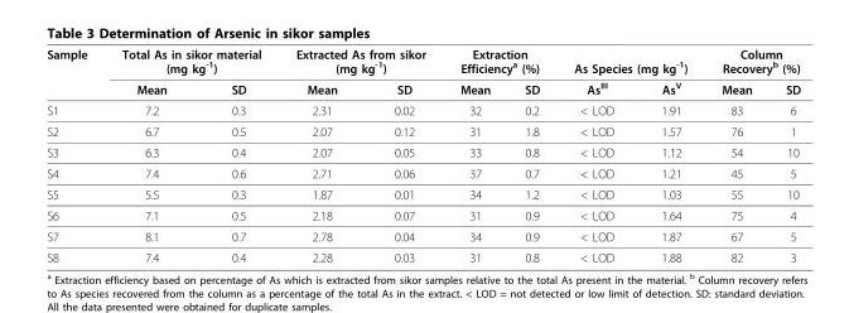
<table><thead><tr><td rowspan="2">Sample</td><td colspan="2">Total As in sikor material (mg kg<sup>-1</sup>)</td><td colspan="2">Extracted As from sikor (mg kg<sup>-1</sup>)</td><td colspan="2">Extraction Efficiency<sup>a</sup> (%)</td><td colspan="2">As Species (mg kg<sup>-1</sup>)</td><td colspan="2">Column Recovery<sup>b</sup> (%)</td></tr><tr><td>Mean</td><td>SD</td><td>Mean</td><td>SD</td><td>Mean</td><td>SD</td><td>As<sup>III</sup></td><td>As<sup>V</sup></td><td>Mean</td><td>SD</td></tr></thead><tbody><tr><td>S1</td><td>7.2</td><td>0.3</td><td>2.31</td><td>0.02</td><td>32</td><td>0.2</td><td>&lt; LOD</td><td>1.91</td><td>83</td><td>6</td></tr><tr><td>S2</td><td>6.7</td><td>0.5</td><td>2.07</td><td>0.12</td><td>31</td><td>1.8</td><td>&lt; LOD</td><td>1.57</td><td>76</td><td>1</td></tr><tr><td>S3</td><td>6.3</td><td>0.4</td><td>2.07</td><td>0.05</td><td>33</td><td>0.8</td><td>&lt; LOD</td><td>1.12</td><td>54</td><td>10</td></tr><tr><td>S4</td><td>7.4</td><td>0.6</td><td>2.71</td><td>0.06</td><td>37</td><td>0.7</td><td>&lt; LOD</td><td>1.21</td><td>45</td><td>5</td></tr><tr><td>S5</td><td>5.5</td><td>0.3</td><td>1.87</td><td>0.01</td><td>34</td><td>1.2</td><td>&lt; LOD</td><td>1.03</td><td>55</td><td>10</td></tr><tr><td>S6</td><td>7.1</td><td>0.5</td><td>2.18</td><td>0.07</td><td>31</td><td>0.9</td><td>&lt; LOD</td><td>1.64</td><td>75</td><td>4</td></tr><tr><td>S7</td><td>8.1</td><td>0.7</td><td>2.78</td><td>0.04</td><td>34</td><td>0.9</td><td>&lt; LOD</td><td>1.87</td><td>67</td><td>5</td></tr><tr><td>S8</td><td>7.4</td><td>0.4</td><td>2.28</td><td>0.03</td><td>31</td><td>0.8</td><td>&lt; LOD</td><td>1.88</td><td>82</td><td>3</td></tr></tbody></table>